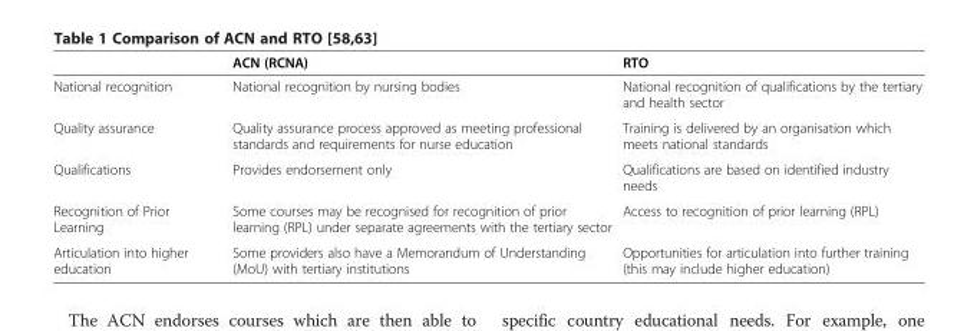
<table><thead><tr><td></td><td>ACN (RCNA)</td><td>RTO</td></tr></thead><tbody><tr><td>National recognition</td><td>National recognition by nursing bodies</td><td>National recognition of qualifications by the tertiary and health sector</td></tr><tr><td>Quality assurance</td><td>Quality assurance process approved as meeting professional standards and requirements for nurse education</td><td>Training is delivered by an organisation which meets national standards</td></tr><tr><td>Qualifications</td><td>Provides endorsement only</td><td>Qualifications are based on identified industry needs</td></tr><tr><td>Recognition of Prior Learning</td><td>Some courses may be recognised for recognition of prior learning (RPL) under separate agreements with the tertiary sector</td><td>Access to recognition of prior learning (RPL)</td></tr><tr><td>Articulation into higher education</td><td>Some providers also have a Memorandum of Understanding (MoU) with tertiary institutions</td><td>Opportunities for articulation into further training (this may include higher education)</td></tr></tbody></table>